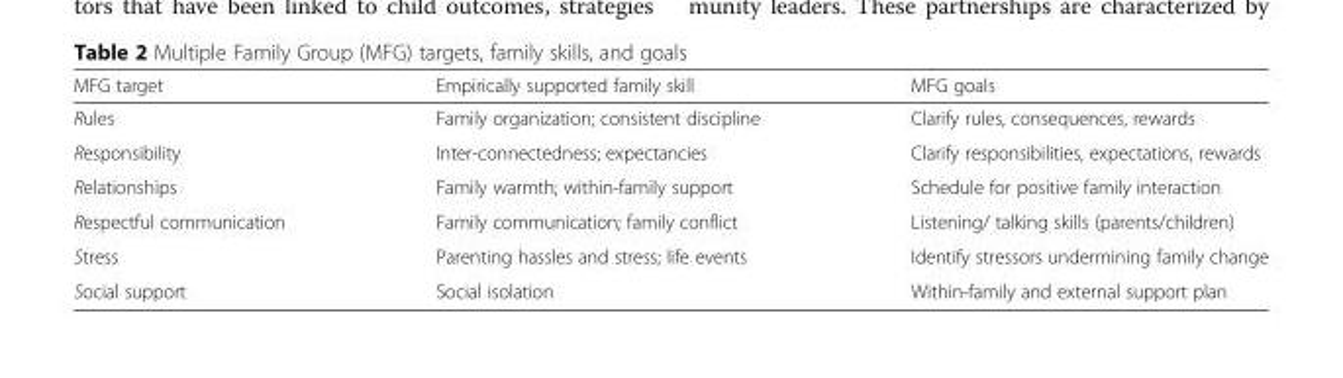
<table><thead><tr><td>MFG target</td><td>Empirically supported family skill</td><td>MFG goals</td></tr></thead><tbody><tr><td>Rules</td><td>Family organization; consistent discipline</td><td>Clarify rules, consequences, rewards</td></tr><tr><td>Responsibility</td><td>Inter-connectedness; expectancies</td><td>Clarify responsibilities, expectations, rewards</td></tr><tr><td>Relationships</td><td>Family warmth; within-family support</td><td>Schedule for positive family interaction</td></tr><tr><td>Respectful communication</td><td>Family communication; family conflict</td><td>Listening/ talking skills (parents/children)</td></tr><tr><td>Stress</td><td>Parenting hassles and stress; life events</td><td>Identify stressors undermining family change</td></tr><tr><td>Social support</td><td>Social isolation</td><td>Within-family and external support plan</td></tr></tbody></table>